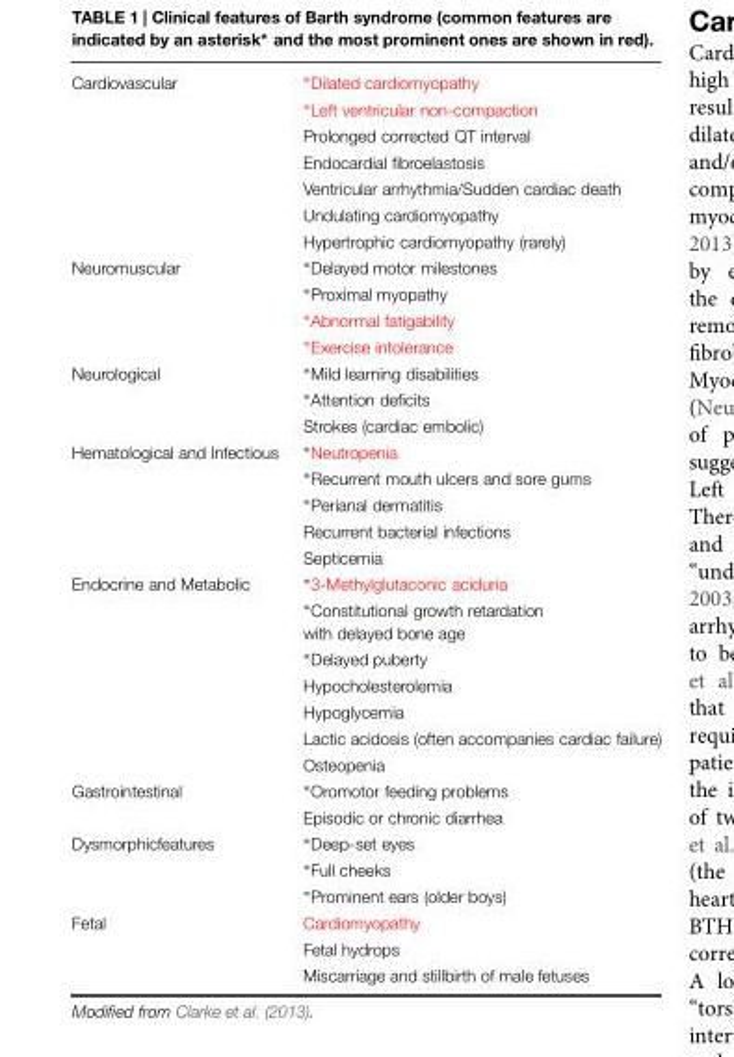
<table><tbody><tr><td rowspan="7">Cardiovascular</td><td>∗Dilated cardiomyopathy</td></tr><tr><td>∗Left ventricular non-compaction</td></tr><tr><td>Prolonged corrected QT interval</td></tr><tr><td>Endocardial fibroelastosis</td></tr><tr><td>Ventricular arrhythmia/Sudden cardiac death</td></tr><tr><td>Undulating cardiomyopathy</td></tr><tr><td>Hypertrophic cardiomyopathy (rarely)</td></tr><tr><td rowspan="4">Neuromuscular</td><td>∗Delayed motor milestones</td></tr><tr><td>∗Proximal myopathy</td></tr><tr><td>∗Abnormal fatigability</td></tr><tr><td>∗Exercise intolerance</td></tr><tr><td rowspan="3">Neurological</td><td>∗Mild learning disabilities</td></tr><tr><td>∗Attention deficits</td></tr><tr><td>Strokes (cardiac embolic)</td></tr><tr><td rowspan="5">Hematological and Infectious</td><td>∗Neutropenia</td></tr><tr><td>∗Recurrent mouth ulcers and sore gums</td></tr><tr><td>∗Perianal dermatitis</td></tr><tr><td>Recurrent bacterial infections</td></tr><tr><td>Septicemia</td></tr><tr><td rowspan="7">Endocrine and Metabolic</td><td>∗3-Methylglutaconic aciduria</td></tr><tr><td>∗Constitutional growth retardation with delayed bone age</td></tr><tr><td>∗Delayed puberty</td></tr><tr><td>Hypocholesterolemia</td></tr><tr><td>Hypoglycemia</td></tr><tr><td>Lactic acidosis (often accompanies cardiac failure)</td></tr><tr><td>Osteopenia</td></tr><tr><td rowspan="2">Gastrointestinal</td><td>∗Oromotor feeding problems</td></tr><tr><td>Episodic or chronic diarrhea</td></tr><tr><td rowspan="3">Dysmorphicfeatures</td><td>∗Deep-set eyes</td></tr><tr><td>∗Full cheeks</td></tr><tr><td>∗Prominent ears (older boys)</td></tr><tr><td rowspan="3">Fetal</td><td>Cardiomyopathy</td></tr><tr><td>Fetal hydrops</td></tr><tr><td>Miscarriage and stillbirth of male fetuses</td></tr></tbody></table>